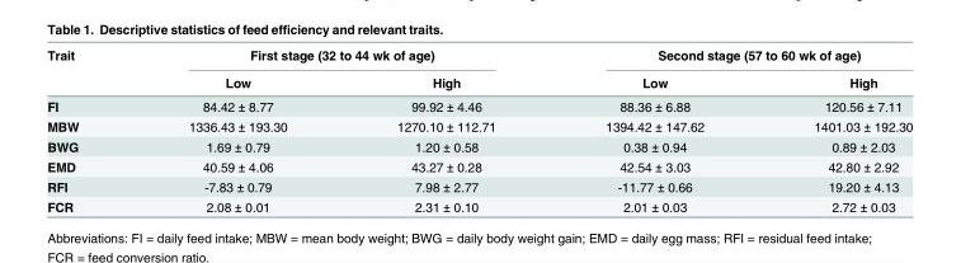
<table><thead><tr><td rowspan="2">Trait</td><td colspan="2">First stage (32 to 44 wk of age)</td><td colspan="2">Second stage (57 to 60 wk of age)</td></tr><tr><td>Low</td><td>High</td><td>Low</td><td>High</td></tr></thead><tbody><tr><td>FI</td><td>84.42 ± 8.77</td><td>99.92 ± 4.46</td><td>88.36 ± 6.88</td><td>120.56 ± 7.11</td></tr><tr><td>MBW</td><td>1336.43 ± 193.30</td><td>1270.10 ± 112.71</td><td>1394.42 ± 147.62</td><td>1401.03 ± 192.30</td></tr><tr><td>BWG</td><td>1.69 ± 0.79</td><td>1.20 ± 0.58</td><td>0.38 ± 0.94</td><td>0.89 ± 2.03</td></tr><tr><td>EMD</td><td>40.59 ± 4.06</td><td>43.27 ± 0.28</td><td>42.54 ± 3.03</td><td>42.80 ± 2.92</td></tr><tr><td>RFI</td><td>-7.83 ± 0.79</td><td>7.98 ± 2.77</td><td>-11.77 ± 0.66</td><td>19.20 ± 4.13</td></tr><tr><td>FCR</td><td>2.08 ± 0.01</td><td>2.31 ± 0.10</td><td>2.01 ± 0.03</td><td>2.72 ± 0.03</td></tr></tbody></table>